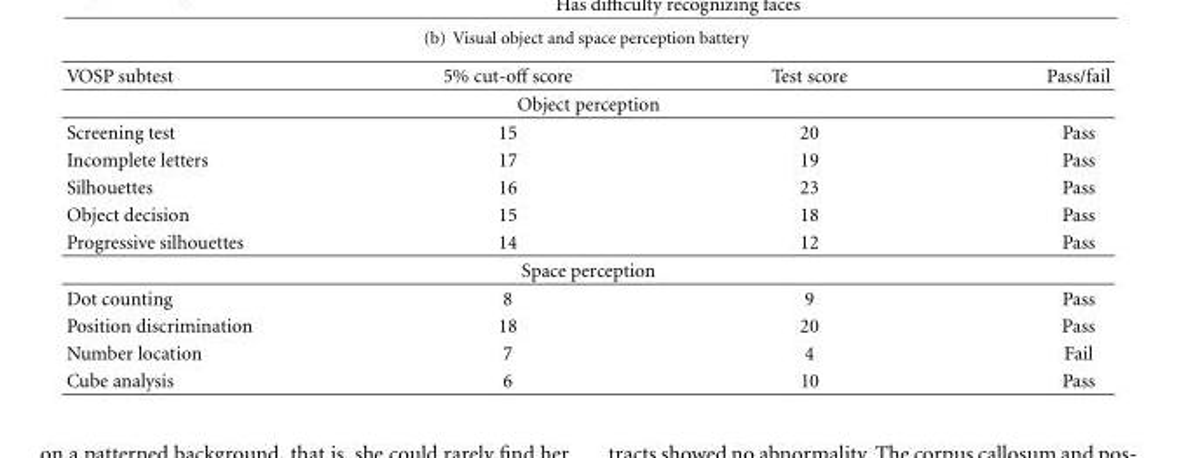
<table><thead><tr><td>VOSP subtest</td><td>5% cut-off score</td><td>Test score</td><td>Pass/fail</td></tr></thead><tbody><tr><td colspan="4">Object perception</td></tr><tr><td>Screening test</td><td>15</td><td>20</td><td>Pass</td></tr><tr><td>Incomplete letters</td><td>17</td><td>19</td><td>Pass</td></tr><tr><td>Silhouettes</td><td>16</td><td>23</td><td>Pass</td></tr><tr><td>Object decision</td><td>15</td><td>18</td><td>Pass</td></tr><tr><td>Progressive silhouettes</td><td>14</td><td>12</td><td>Pass</td></tr><tr><td colspan="4">Space perception</td></tr><tr><td>Dot counting</td><td>8</td><td>9</td><td>Pass</td></tr><tr><td>Position discrimination</td><td>18</td><td>20</td><td>Pass</td></tr><tr><td>Number location</td><td>7</td><td>4</td><td>Fail</td></tr><tr><td>Cube analysis</td><td>6</td><td>10</td><td>Pass</td></tr></tbody></table>